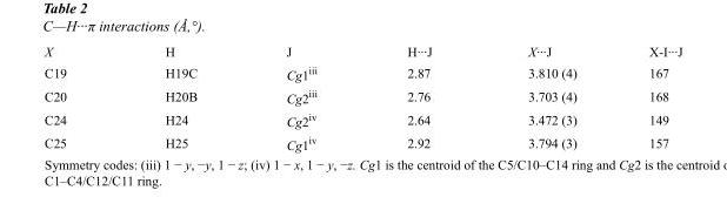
<table><tbody><tr><td>X</td><td>H</td><td>J</td><td>H···J</td><td>X···J</td><td>X-I···J</td></tr><tr><td>C19</td><td>H19C</td><td>Cg1<sup>iii</sup></td><td>2.87</td><td>3.810 (4)</td><td>167</td></tr><tr><td>C20</td><td>H20B</td><td>Cg2<sup>iii</sup></td><td>2.76</td><td>3.703 (4)</td><td>168</td></tr><tr><td>C24</td><td>H24</td><td>Cg2<sup>iv</sup></td><td>2.64</td><td>3.472 (3)</td><td>149</td></tr><tr><td>C25</td><td>H25</td><td>Cg1<sup>iv</sup></td><td>2.92</td><td>3.794 (3)</td><td>157</td></tr></tbody></table>